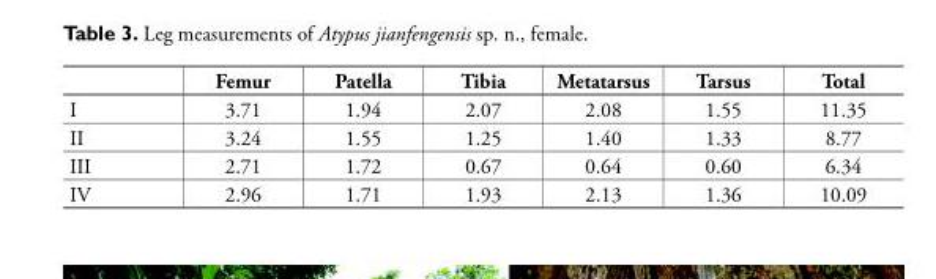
<table><thead><tr><td></td><td>Femur</td><td>Patella</td><td>Tibia</td><td>Metatarsus</td><td>Tarsus</td><td>Total</td></tr></thead><tbody><tr><td>I</td><td>3.71</td><td>1.94</td><td>2.07</td><td>2.08</td><td>1.55</td><td>11.35</td></tr><tr><td>II</td><td>3.24</td><td>1.55</td><td>1.25</td><td>1.40</td><td>1.33</td><td>8.77</td></tr><tr><td>III</td><td>2.71</td><td>1.72</td><td>0.67</td><td>0.64</td><td>0.60</td><td>6.34</td></tr><tr><td>IV</td><td>2.96</td><td>1.71</td><td>1.93</td><td>2.13</td><td>1.36</td><td>10.09</td></tr></tbody></table>